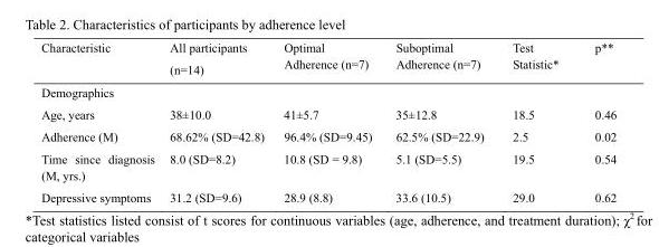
<table><thead><tr><td>Characteristic</td><td>All participants (n=14)</td><td>Optimal Adherence (n=7)</td><td>Suboptimal Adherence (n=7)</td><td>Test Statistic*</td><td>p**</td></tr></thead><tbody><tr><td colspan="6">Demographics</td></tr><tr><td>Age, years</td><td>38±10.0</td><td>41±5.7</td><td>35±12.8</td><td>18.5</td><td>0.46</td></tr><tr><td>Adherence (M)</td><td>68.62% (SD=42.8)</td><td>96.4% (SD=9.45)</td><td>62.5% (SD=22.9)</td><td>2.5</td><td>0.02</td></tr><tr><td>Time since diagnosis (M, yrs.)</td><td>8.0 (SD=8.2)</td><td>10.8 (SD = 9.8)</td><td>5.1 (SD=5.5)</td><td>19.5</td><td>0.54</td></tr><tr><td>Depressive symptoms</td><td>31.2 (SD=9.6)</td><td>28.9 (8.8)</td><td>33.6 (10.5)</td><td>29.0</td><td>0.62</td></tr></tbody></table>